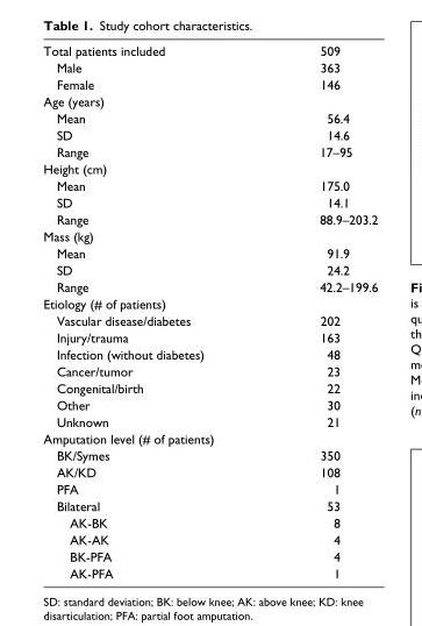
<table><tbody><tr><td>Total patients included</td><td>509</td></tr><tr><td>Male</td><td>363</td></tr><tr><td>Female</td><td>146</td></tr><tr><td colspan="2">Age (years)</td></tr><tr><td>Mean</td><td>56.4</td></tr><tr><td>SD</td><td>14.6</td></tr><tr><td>Range</td><td>17–95</td></tr><tr><td colspan="2">Height (cm)</td></tr><tr><td>Mean</td><td>175.0</td></tr><tr><td>SD</td><td>14.1</td></tr><tr><td>Range</td><td>88.9–203.2</td></tr><tr><td colspan="2">Mass (kg)</td></tr><tr><td>Mean</td><td>91.9</td></tr><tr><td>SD</td><td>24.2</td></tr><tr><td>Range</td><td>42.2–199.6</td></tr><tr><td colspan="2">Etiology (# of patients)</td></tr><tr><td>Vascular disease/diabetes</td><td>202</td></tr><tr><td>Injury/trauma</td><td>163</td></tr><tr><td>Infection (without diabetes)</td><td>48</td></tr><tr><td>Cancer/tumor</td><td>23</td></tr><tr><td>Congenital/birth</td><td>22</td></tr><tr><td>Other</td><td>30</td></tr><tr><td>Unknown</td><td>21</td></tr><tr><td colspan="2">Amputation level (# of patients)</td></tr><tr><td>BK/Symes</td><td>350</td></tr><tr><td>AK/KD</td><td>108</td></tr><tr><td>PFA</td><td>1</td></tr><tr><td>Bilateral</td><td>53</td></tr><tr><td>AK-BK</td><td>8</td></tr><tr><td>AK-AK</td><td>4</td></tr><tr><td>BK-PFA</td><td>4</td></tr><tr><td>AK-PFA</td><td>1</td></tr></tbody></table>